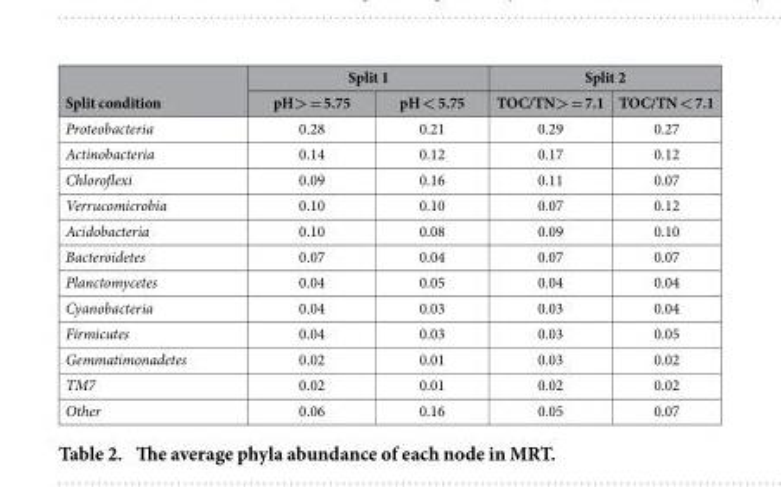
<table><thead><tr><td rowspan="2">Split condition</td><td colspan="2">Split 1</td><td colspan="2">Split 2</td></tr><tr><td>pH&gt; = 5.75</td><td>pH &lt; 5.75</td><td>TOC/TN&gt; = 7.1</td><td>TOC/TN &lt; 7.1</td></tr></thead><tbody><tr><td>Proteobacteria</td><td>0.28</td><td>0.21</td><td>0.29</td><td>0.27</td></tr><tr><td>Actinobacteria</td><td>0.14</td><td>0.12</td><td>0.17</td><td>0.12</td></tr><tr><td>Chloroflexi</td><td>0.09</td><td>0.16</td><td>0.11</td><td>0.07</td></tr><tr><td>Verrucomicrobia</td><td>0.10</td><td>0.10</td><td>0.07</td><td>0.12</td></tr><tr><td>Acidobacteria</td><td>0.10</td><td>0.08</td><td>0.09</td><td>0.10</td></tr><tr><td>Bacteroidetes</td><td>0.07</td><td>0.04</td><td>0.07</td><td>0.07</td></tr><tr><td>Planctomycetes</td><td>0.04</td><td>0.05</td><td>0.04</td><td>0.04</td></tr><tr><td>Cyanobacteria</td><td>0.04</td><td>0.03</td><td>0.03</td><td>0.04</td></tr><tr><td>Firmicutes</td><td>0.04</td><td>0.03</td><td>0.03</td><td>0.05</td></tr><tr><td>Gemmatimonadetes</td><td>0.02</td><td>0.01</td><td>0.03</td><td>0.02</td></tr><tr><td>TM7</td><td>0.02</td><td>0.01</td><td>0.02</td><td>0.02</td></tr><tr><td>Other</td><td>0.06</td><td>0.16</td><td>0.05</td><td>0.07</td></tr></tbody></table>